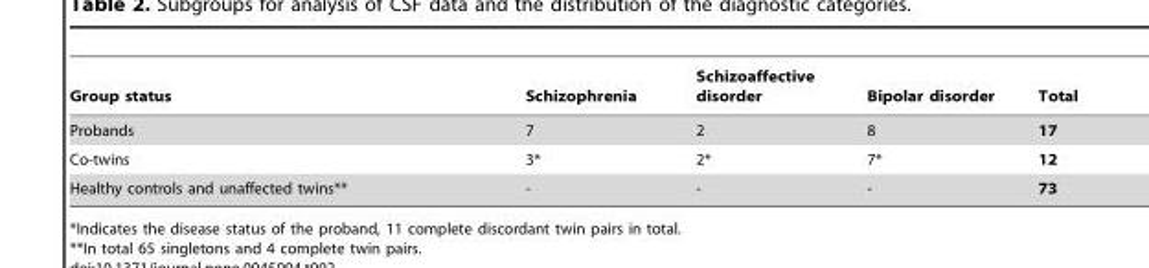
<table><thead><tr><td>Group status</td><td>Schizophrenia</td><td>Schizoaffective disorder</td><td>Bipolar disorder</td><td>Total</td></tr></thead><tbody><tr><td>Probands</td><td>7</td><td>2</td><td>8</td><td>17</td></tr><tr><td>Co-twins</td><td>3*</td><td>2*</td><td>7*</td><td>12</td></tr><tr><td>Healthy controls and unaffected twins**</td><td>-</td><td>-</td><td>-</td><td>73</td></tr></tbody></table>